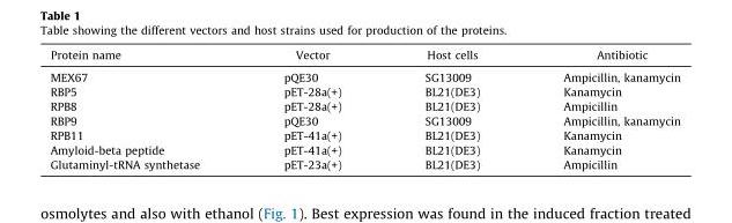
<table><thead><tr><td>Protein name</td><td>Vector</td><td>Host cells</td><td>Antibiotic</td></tr></thead><tbody><tr><td>MEX67</td><td>pQE30</td><td>SG13009</td><td>Ampicillin, kanamycin</td></tr><tr><td>RBP5</td><td>pET-28a(+)</td><td>BL21(DE3)</td><td>Kanamycin</td></tr><tr><td>RPB8</td><td>pET-28a(+)</td><td>BL21(DE3)</td><td>Ampicillin</td></tr><tr><td>RBP9</td><td>pQE30</td><td>SG13009</td><td>Ampicillin, kanamycin</td></tr><tr><td>RPB11</td><td>pET-41a(+)</td><td>BL21(DE3)</td><td>Kanamycin</td></tr><tr><td>Amyloid-beta peptide</td><td>pET-41a(+)</td><td>BL21(DE3)</td><td>Kanamycin</td></tr><tr><td>Glutaminyl-tRNA synthetase</td><td>pET-23a(+)</td><td>BL21(DE3)</td><td>Ampicillin</td></tr></tbody></table>